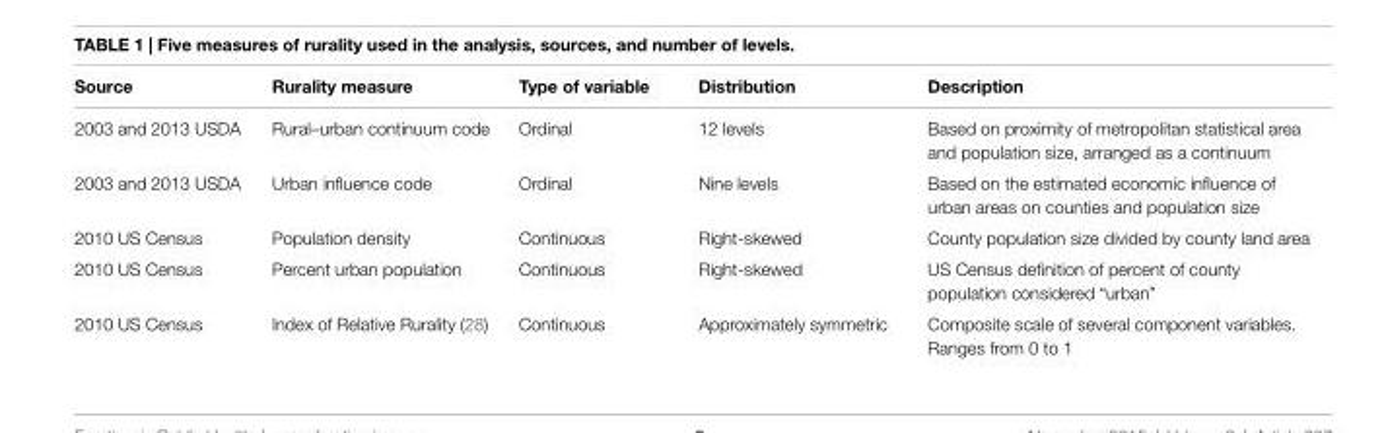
<table><thead><tr><td>source</td><td>rurality measure</td><td>Type of variable</td><td>Distribution</td><td>Description</td></tr></thead><tbody><tr><td>2003 and 2013 USDA</td><td>Rural–urban continuum code</td><td>Ordinal</td><td>12 levels</td><td>Based on proximity of metropolitan statistical area and population size, arranged as a continuum</td></tr><tr><td>2003 and 2013 USDA</td><td>Urban influence code</td><td>Ordinal</td><td>Nine levels</td><td>Based on the estimated economic influence of urban areas on counties and population size</td></tr><tr><td>2010 US Census</td><td>Population density</td><td>Continuous</td><td>Right-skewed</td><td>County population size divided by county land area</td></tr><tr><td>2010 US Census</td><td>Percent urban population</td><td>Continuous</td><td>Right-skewed</td><td>US Census definition of percent of county population considered “urban”</td></tr><tr><td>2010 US Census</td><td>Index of Relative Rurality (28)</td><td>Continuous</td><td>Approximately symmetric</td><td>Composite scale of several component variables. Ranges from 0 to 1</td></tr></tbody></table>